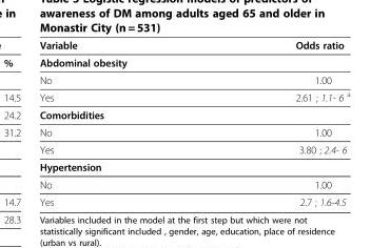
<table><thead><tr><td>Variable</td><td>Odds ratio</td></tr></thead><tbody><tr><td colspan="2">Abdominal obesity</td></tr><tr><td>No</td><td>1.00</td></tr><tr><td>Yes</td><td>2.61 ; 1.1- 6 <sup>a</sup></td></tr><tr><td colspan="2">Comorbidities</td></tr><tr><td>No</td><td>1.00</td></tr><tr><td>Yes</td><td>3.80 ; 2.4- 6</td></tr><tr><td colspan="2">Hypertension</td></tr><tr><td>No</td><td>1.00</td></tr><tr><td>Yes</td><td>2.7 ; 1.6-4.5</td></tr></tbody></table>